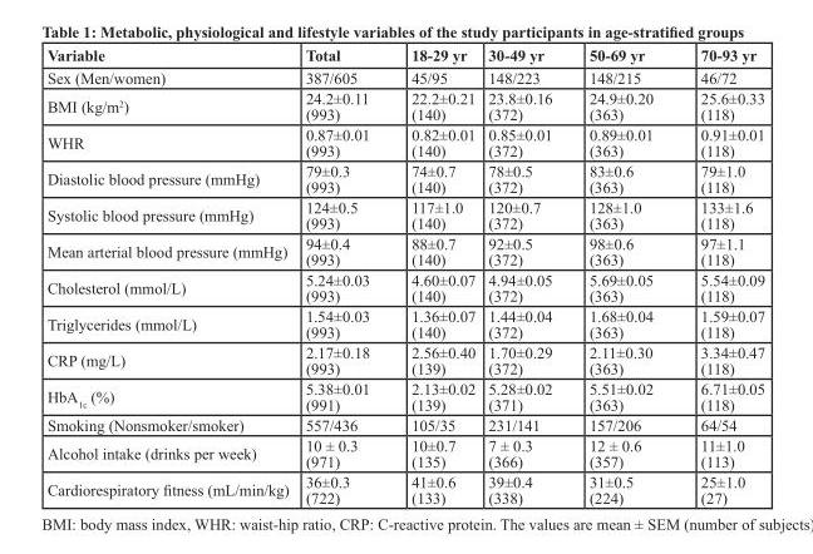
<table><thead><tr><td>Variable</td><td>Total</td><td>18-29 yr</td><td>30-49 yr</td><td>50-69 yr</td><td>70-93 yr</td></tr></thead><tbody><tr><td>Sex (Men/women)</td><td>387/605</td><td>45/95</td><td>148/223</td><td>148/215</td><td>46/72</td></tr><tr><td>BMI (kg/m<sup>2</sup>)</td><td>24.2±0.11 (993)</td><td>22.2±0.21 (140)</td><td>23.8±0.16 (372)</td><td>24.9±0.20 (363)</td><td>25.6±0.33 (118)</td></tr><tr><td>WHR</td><td>0.87±0.01 (993)</td><td>0.82±0.01 (140)</td><td>0.85±0.01 (372)</td><td>0.89±0.01 (363)</td><td>0.91±0.01 (118)</td></tr><tr><td>Diastolic blood pressure (mmHg)</td><td>79±0.3 (993)</td><td>74±0.7 (140)</td><td>78±0.5 (372)</td><td>83±0.6 (363)</td><td>79±1.0 (118)</td></tr><tr><td>Systolic blood pressure (mmHg)</td><td>124±0.5 (993)</td><td>117±1.0 (140)</td><td>120±0.7 (372)</td><td>128±1.0 (363)</td><td>133±1.6 (118)</td></tr><tr><td>Mean arterial blood pressure (mmHg)</td><td>94±0.4 (993)</td><td>88±0.7 (140)</td><td>92±0.5 (372)</td><td>98±0.6 (363)</td><td>97±1.1 (118)</td></tr><tr><td>Cholesterol (mmol/L)</td><td>5.24±0.03 (993)</td><td>4.60±0.07 (140)</td><td>4.94±0.05 (372)</td><td>5.69±0.05 (363)</td><td>5.54±0.09 (118)</td></tr><tr><td>Triglycerides (mmol/L)</td><td>1.54±0.03 (993)</td><td>1.36±0.07 (140)</td><td>1.44±0.04 (372)</td><td>1.68±0.04 (363)</td><td>1.59±0.07 (118)</td></tr><tr><td>CRP (mg/L)</td><td>2.17±0.18 (993)</td><td>2.56±0.40 (139)</td><td>1.70±0.29 (372)</td><td>2.11±0.30 (363)</td><td>3.34±0.47 (118)</td></tr><tr><td>HbA<sub>1c</sub> (%)</td><td>5.38±0.01 (991)</td><td>2.13±0.02 (139)</td><td>5.28±0.02 (371)</td><td>5.51±0.02 (363)</td><td>6.71±0.05 (118)</td></tr><tr><td>Smoking (Nonsmoker/smoker)</td><td>557/436</td><td>105/35</td><td>231/141</td><td>157/206</td><td>64/54</td></tr><tr><td>Alcohol intake (drinks per week)</td><td>10 ± 0.3 (971)</td><td>10±0.7 (135)</td><td>7 ± 0.3 (366)</td><td>12 ± 0.6 (357)</td><td>11±1.0 (113)</td></tr><tr><td>Cardiorespiratory fitness (mL/min/kg)</td><td>36±0.3 (722)</td><td>41±0.6 (133)</td><td>39±0.4 (338)</td><td>31±0.5 (224)</td><td>25±1.0 (27)</td></tr></tbody></table>